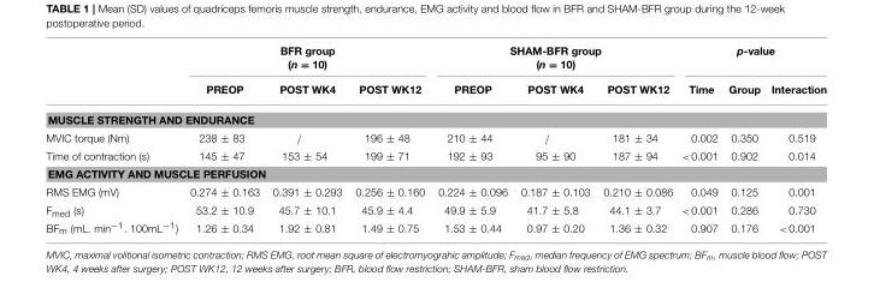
<table><thead><tr><td rowspan="2"></td><td colspan="3">BFR group (n = 10)</td><td colspan="3">SHAM-BFR group (n = 10)</td><td colspan="3">p-value</td></tr><tr><td>PREOP</td><td>POST WK4</td><td>POST WK12</td><td>PREOP</td><td>POST WK4</td><td>POST WK12</td><td>Time</td><td>Group</td><td>Interaction</td></tr></thead><tbody><tr><td colspan="10">MUSCLE STRENGTH AND ENDURANCE</td></tr><tr><td>MVIC torque (Nm)</td><td>238 ± 83</td><td>/</td><td>196 ± 48</td><td>210 ± 44</td><td>/</td><td>181 ± 34</td><td>0.002</td><td>0.350</td><td>0.519</td></tr><tr><td>Time of contraction (s)</td><td>145 ± 47</td><td>153 ± 54</td><td>199 ± 71</td><td>192 ± 93</td><td>95 ± 90</td><td>187 ± 94</td><td>&lt;0.001</td><td>0.902</td><td>0.014</td></tr><tr><td colspan="10">EMG ACTIVITY AND MUSCLE PERFUSION</td></tr><tr><td>RMS EMG (mV)</td><td>0.274 ± 0.163</td><td>0.391 ± 0.293</td><td>0.256 ± 0.160</td><td>0.224 ± 0.096</td><td>0.187 ± 0.103</td><td>0.210 ± 0.086</td><td>0.049</td><td>0.125</td><td>0.001</td></tr><tr><td>F<sub>med</sub> (s)</td><td>53.2 ± 10.9</td><td>45.7 ± 10.1</td><td>45.9 ± 4.4</td><td>49.9 ± 5.9</td><td>41.7 ± 5.8</td><td>44.1 ± 3.7</td><td>&lt;0.001</td><td>0.286</td><td>0.730</td></tr><tr><td>BF<sub>m</sub> (mL. min<sup>−1</sup>. 100mL<sup>−1</sup>)</td><td>1.26 ± 0.34</td><td>1.92 ± 0.81</td><td>1.49 ± 0.75</td><td>1.53 ± 0.44</td><td>0.97 ± 0.20</td><td>1.36 ± 0.32</td><td>0.907</td><td>0.176</td><td>&lt;0.001</td></tr></tbody></table>